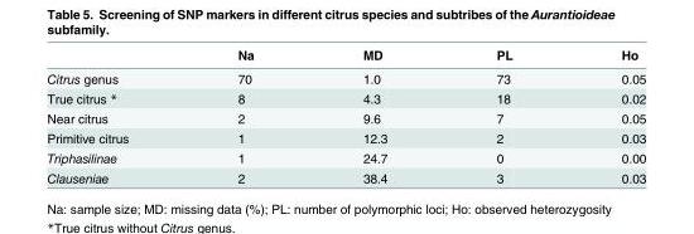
<table><thead><tr><td></td><td>Na</td><td>MD</td><td>PL</td><td>Ho</td></tr></thead><tbody><tr><td>Citrus genus</td><td>70</td><td>1.0</td><td>73</td><td>0.05</td></tr><tr><td>True citrus *</td><td>8</td><td>4.3</td><td>18</td><td>0.02</td></tr><tr><td>Near citrus</td><td>2</td><td>9.6</td><td>7</td><td>0.05</td></tr><tr><td>Primitive citrus</td><td>1</td><td>12.3</td><td>2</td><td>0.03</td></tr><tr><td>Triphasilinae</td><td>1</td><td>24.7</td><td>0</td><td>0.00</td></tr><tr><td>Clauseniae</td><td>2</td><td>38.4</td><td>3</td><td>0.03</td></tr></tbody></table>